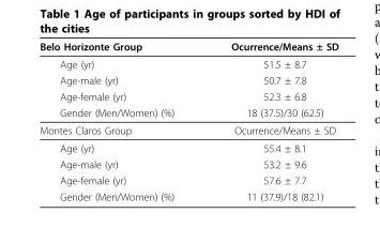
<table><thead><tr><td>Belo Horizonte Group</td><td>Ocurrence/Means ± SD</td></tr></thead><tbody><tr><td>Age (yr)</td><td>51.5 ± 8.7</td></tr><tr><td>Age-male (yr)</td><td>50.7 ± 7.8</td></tr><tr><td>Age-female (yr)</td><td>52.3 ± 6.8</td></tr><tr><td>Gender (Men/Women) (%)</td><td>18 (37.5)/30 (62.5)</td></tr><tr><td>Montes Claros Group</td><td>Ocurrence/Means ± SD</td></tr><tr><td>Age (yr)</td><td>55.4 ± 8.1</td></tr><tr><td>Age-male (yr)</td><td>53.2 ± 9.6</td></tr><tr><td>Age-female (yr)</td><td>57.6 ± 7.7</td></tr><tr><td>Gender (Men/Women) (%)</td><td>11 (37.9)/18 (82.1)</td></tr></tbody></table>